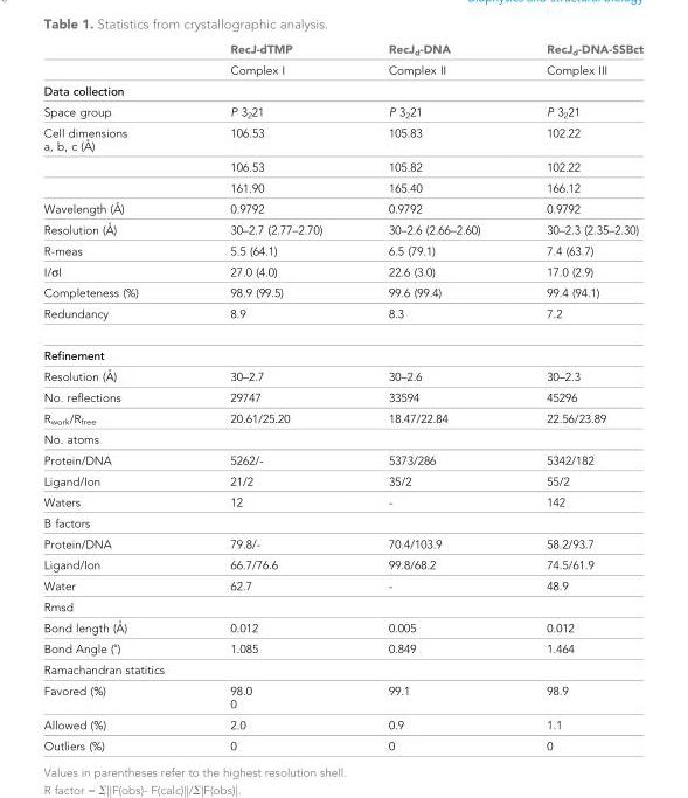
<table><thead><tr><td></td><td>RecJ-dTMP</td><td>RecJ<sub>d</sub>-DNA</td><td>RecJ<sub>d</sub>-DNA-SSBct</td></tr></thead><tbody><tr><td></td><td>Complex I</td><td>Complex II</td><td>Complex III</td></tr><tr><td colspan="4">Data collection</td></tr><tr><td>Space group</td><td>P 3<sub>2</sub>21</td><td>P 3<sub>2</sub>21</td><td>P 3<sub>2</sub>21</td></tr><tr><td rowspan="3">Cell dimensions a, b, c (A˚ )</td><td>106.53</td><td>105.83</td><td>102.22</td></tr><tr><td>106.53</td><td>105.82</td><td>102.22</td></tr><tr><td>161.90</td><td>165.40</td><td>166.12</td></tr><tr><td>Wavelength (A˚ )</td><td>0.9792</td><td>0.9792</td><td>0.9792</td></tr><tr><td>Resolution (A˚ )</td><td>30–2.7 (2.77–2.70)</td><td>30–2.6 (2.66–2.60)</td><td>30–2.3 (2.35–2.30)</td></tr><tr><td>R-meas</td><td>5.5 (64.1)</td><td>6.5 (79.1)</td><td>7.4 (63.7)</td></tr><tr><td>I/σI</td><td>27.0 (4.0)</td><td>22.6 (3.0)</td><td>17.0 (2.9)</td></tr><tr><td>Completeness (%)</td><td>98.9 (99.5)</td><td>99.6 (99.4)</td><td>99.4 (94.1)</td></tr><tr><td>Redundancy</td><td>8.9</td><td>8.3</td><td>7.2</td></tr><tr><td colspan="4">Refinement</td></tr><tr><td>Resolution (A˚ )</td><td>30–2.7</td><td>30–2.6</td><td>30–2.3</td></tr><tr><td>No. reflections</td><td>29747</td><td>33594</td><td>45296</td></tr><tr><td>R<sub>work</sub>/R<sub>free</sub></td><td>20.61/25.20</td><td>18.47/22.84</td><td>22.56/23.89</td></tr><tr><td colspan="4">No. atoms</td></tr><tr><td>Protein/DNA</td><td>5262/-</td><td>5373/286</td><td>5342/182</td></tr><tr><td>Ligand/Ion</td><td>21/2</td><td>35/2</td><td>55/2</td></tr><tr><td>Waters</td><td>12</td><td>-</td><td>142</td></tr><tr><td colspan="4">B factors</td></tr><tr><td>Protein/DNA</td><td>79.8/-</td><td>70.4/103.9</td><td>58.2/93.7</td></tr><tr><td>Ligand/Ion</td><td>66.7/76.6</td><td>99.8/68.2</td><td>74.5/61.9</td></tr><tr><td>Water</td><td>62.7</td><td>-</td><td>48.9</td></tr><tr><td colspan="4">Rmsd</td></tr><tr><td>Bond length (A˚ )</td><td>0.012</td><td>0.005</td><td>0.012</td></tr><tr><td>Bond Angle (˚)</td><td>1.085</td><td>0.849</td><td>1.464</td></tr><tr><td colspan="4">Ramachandran statitics</td></tr><tr><td>Favored (%)</td><td>98.0 0</td><td>99.1</td><td>98.9</td></tr><tr><td>Allowed (%)</td><td>2.0</td><td>0.9</td><td>1.1</td></tr><tr><td>Outliers (%)</td><td>0</td><td>0</td><td>0</td></tr></tbody></table>